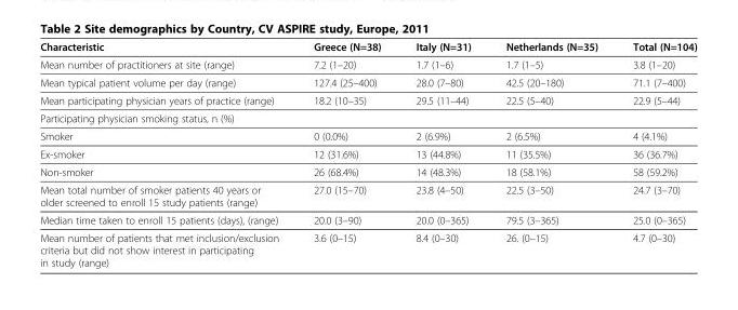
<table><thead><tr><td>Characteristic</td><td>Greece (N=38)</td><td>Italy (N=31)</td><td>Netherlands (N=35)</td><td>Total (N=104)</td></tr></thead><tbody><tr><td>Mean number of practitioners at site (range)</td><td>7.2 (1–20)</td><td>1.7 (1–6)</td><td>1.7 (1–5)</td><td>3.8 (1–20)</td></tr><tr><td>Mean typical patient volume per day (range)</td><td>127.4 (25–400)</td><td>28.0 (7–80)</td><td>42.5 (20–180)</td><td>71.1 (7–400)</td></tr><tr><td>Mean participating physician years of practice (range)</td><td>18.2 (10–35)</td><td>29.5 (11–44)</td><td>22.5 (5–40)</td><td>22.9 (5–44)</td></tr><tr><td colspan="5">Participating physician smoking status, n (%)</td></tr><tr><td>Smoker</td><td>0 (0.0%)</td><td>2 (6.9%)</td><td>2 (6.5%)</td><td>4 (4.1%)</td></tr><tr><td>Ex-smoker</td><td>12 (31.6%)</td><td>13 (44.8%)</td><td>11 (35.5%)</td><td>36 (36.7%)</td></tr><tr><td>Non-smoker</td><td>26 (68.4%)</td><td>14 (48.3%)</td><td>18 (58.1%)</td><td>58 (59.2%)</td></tr><tr><td>Mean total number of smoker patients 40 years or older screened to enroll 15 study patients (range)</td><td>27.0 (15–70)</td><td>23.8 (4–50)</td><td>22.5 (3–50)</td><td>24.7 (3–70)</td></tr><tr><td>Median time taken to enroll 15 patients (days), (range)</td><td>20.0 (3–90)</td><td>20.0 (0–365)</td><td>79.5 (3–365)</td><td>25.0 (0–365)</td></tr><tr><td>Mean number of patients that met inclusion/exclusion criteria but did not show interest in participating in study (range)</td><td>3.6 (0–15)</td><td>8.4 (0–30)</td><td>26. (0–15)</td><td>4.7 (0–30)</td></tr></tbody></table>